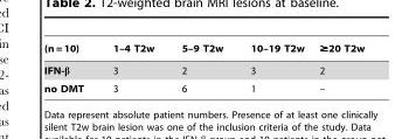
<table><thead><tr><td>(n = 10)</td><td>1–4 T2w</td><td>5–9 T2w</td><td>10–19 T2w</td><td>≥20 T2w</td></tr></thead><tbody><tr><td>IFN-β</td><td>3</td><td>2</td><td>3</td><td>2</td></tr><tr><td>no DMT</td><td>3</td><td>6</td><td>1</td><td>–</td></tr></tbody></table>